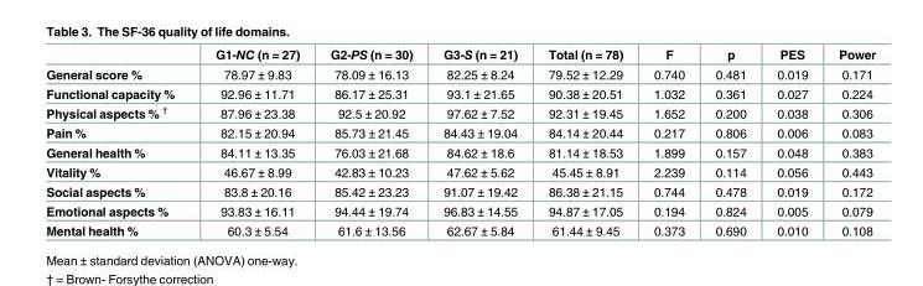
<table><thead><tr><td></td><td>G1-NC (n = 27)</td><td>G2-PS (n = 30)</td><td>G3-S (n = 21)</td><td>Total (n = 78)</td><td>F</td><td>p</td><td>PES</td><td>Power</td></tr></thead><tbody><tr><td>General score %</td><td>78.97 ± 9.83</td><td>78.09 ± 16.13</td><td>82.25 ± 8.24</td><td>79.52 ± 12.29</td><td>0.740</td><td>0.481</td><td>0.019</td><td>0.171</td></tr><tr><td>Functional capacity %</td><td>92.96 ± 11.71</td><td>86.17 ± 25.31</td><td>93.1 ± 21.65</td><td>90.38 ± 20.51</td><td>1.032</td><td>0.361</td><td>0.027</td><td>0.224</td></tr><tr><td>Physical aspects % <sup>†</sup></td><td>87.96 ± 23.38</td><td>92.5 ± 20.92</td><td>97.62 ± 7.52</td><td>92.31 ± 19.45</td><td>1.652</td><td>0.200</td><td>0.038</td><td>0.306</td></tr><tr><td>Pain %</td><td>82.15 ± 20.94</td><td>85.73 ± 21.45</td><td>84.43 ± 19.04</td><td>84.14 ± 20.44</td><td>0.217</td><td>0.806</td><td>0.006</td><td>0.083</td></tr><tr><td>General health %</td><td>84.11 ± 13.35</td><td>76.03 ± 21.68</td><td>84.62 ± 18.6</td><td>81.14 ± 18.53</td><td>1.899</td><td>0.157</td><td>0.048</td><td>0.383</td></tr><tr><td>Vitality %</td><td>46.67 ± 8.99</td><td>42.83 ± 10.23</td><td>47.62 ± 5.62</td><td>45.45 ± 8.91</td><td>2.239</td><td>0.114</td><td>0.056</td><td>0.443</td></tr><tr><td>Social aspects %</td><td>83.8 ± 20.16</td><td>85.42 ± 23.23</td><td>91.07 ± 19.42</td><td>86.38 ± 21.15</td><td>0.744</td><td>0.478</td><td>0.019</td><td>0.172</td></tr><tr><td>Emotional aspects %</td><td>93.83 ± 16.11</td><td>94.44 ± 19.74</td><td>96.83 ± 14.55</td><td>94.87 ± 17.05</td><td>0.194</td><td>0.824</td><td>0.005</td><td>0.079</td></tr><tr><td>Mental health %</td><td>60.3 ± 5.54</td><td>61.6 ± 13.56</td><td>62.67 ± 5.84</td><td>61.44 ± 9.45</td><td>0.373</td><td>0.690</td><td>0.010</td><td>0.108</td></tr></tbody></table>